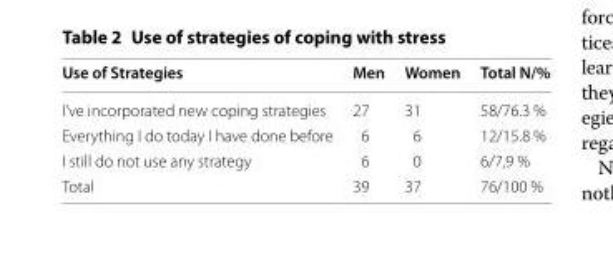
<table><thead><tr><td>Use of Strategies</td><td>Men</td><td>Women</td><td>Total N/%</td></tr></thead><tbody><tr><td>I’ve incorporated new coping strategies</td><td>27</td><td>31</td><td>58/76.3 %</td></tr><tr><td>Everything I do today I have done before</td><td>6</td><td>6</td><td>12/15.8 %</td></tr><tr><td>I still do not use any strategy</td><td>6</td><td>0</td><td>6/7,9 %</td></tr><tr><td>Total</td><td>39</td><td>37</td><td>76/100 %</td></tr></tbody></table>